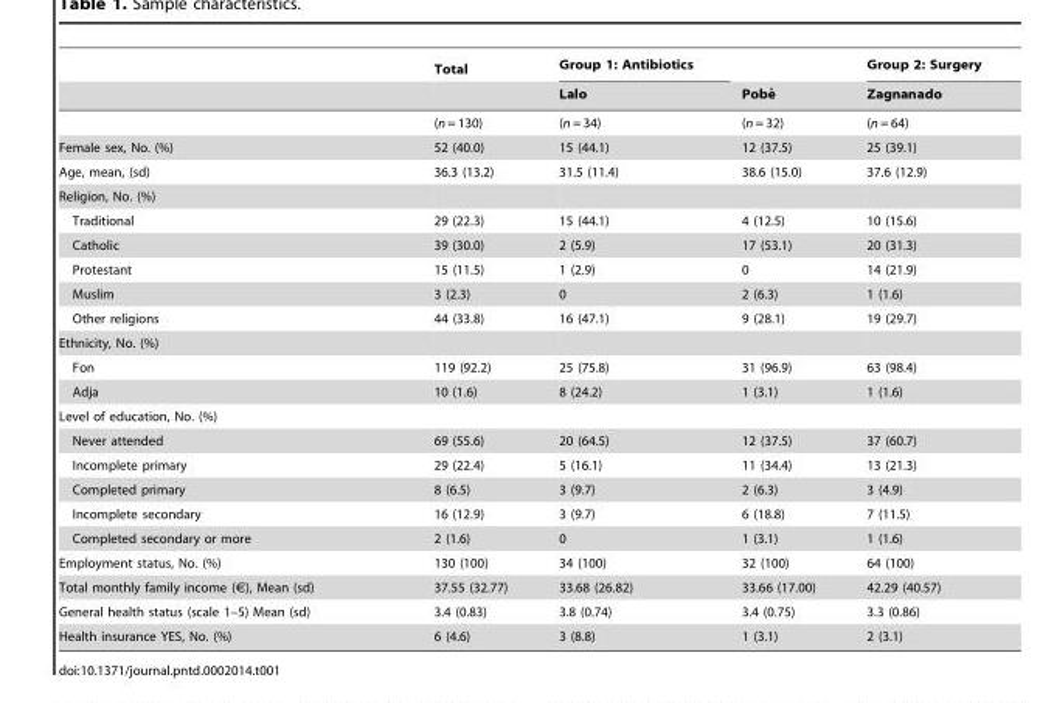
<table><thead><tr><td rowspan="2"></td><td rowspan="2">Total</td><td rowspan="2">Group 1: Antibiotics Lalo</td><td rowspan="2">Pobe`</td><td rowspan="2">Group 2: Surgery Zagnanado</td></tr><tr></tr></thead><tbody><tr><td></td><td>(n = 130)</td><td>(n = 34)</td><td>(n = 32)</td><td>(n = 64)</td></tr><tr><td>Female sex, No. (%)</td><td>52 (40.0)</td><td>15 (44.1)</td><td>12 (37.5)</td><td>25 (39.1)</td></tr><tr><td>Age, mean, (sd)</td><td>36.3 (13.2)</td><td>31.5 (11.4)</td><td>38.6 (15.0)</td><td>37.6 (12.9)</td></tr><tr><td colspan="5">Religion, No. (%)</td></tr><tr><td>Traditional</td><td>29 (22.3)</td><td>15 (44.1)</td><td>4 (12.5)</td><td>10 (15.6)</td></tr><tr><td>Catholic</td><td>39 (30.0)</td><td>2 (5.9)</td><td>17 (53.1)</td><td>20 (31.3)</td></tr><tr><td>Protestant</td><td>15 (11.5)</td><td>1 (2.9)</td><td>0</td><td>14 (21.9)</td></tr><tr><td>Muslim</td><td>3 (2.3)</td><td>0</td><td>2 (6.3)</td><td>1 (1.6)</td></tr><tr><td>Other religions</td><td>44 (33.8)</td><td>16 (47.1)</td><td>9 (28.1)</td><td>19 (29.7)</td></tr><tr><td colspan="5">Ethnicity, No. (%)</td></tr><tr><td>Fon</td><td>119 (92.2)</td><td>25 (75.8)</td><td>31 (96.9)</td><td>63 (98.4)</td></tr><tr><td>Adja</td><td>10 (1.6)</td><td>8 (24.2)</td><td>1 (3.1)</td><td>1 (1.6)</td></tr><tr><td colspan="5">Level of education, No. (%)</td></tr><tr><td>Never attended</td><td>69 (55.6)</td><td>20 (64.5)</td><td>12 (37.5)</td><td>37 (60.7)</td></tr><tr><td>Incomplete primary</td><td>29 (22.4)</td><td>5 (16.1)</td><td>11 (34.4)</td><td>13 (21.3)</td></tr><tr><td>Completed primary</td><td>8 (6.5)</td><td>3 (9.7)</td><td>2 (6.3)</td><td>3 (4.9)</td></tr><tr><td>Incomplete secondary</td><td>16 (12.9)</td><td>3 (9.7)</td><td>6 (18.8)</td><td>7 (11.5)</td></tr><tr><td>Completed secondary or more</td><td>2 (1.6)</td><td>0</td><td>1 (3.1)</td><td>1 (1.6)</td></tr><tr><td>Employment status, No. (%)</td><td>130 (100)</td><td>34 (100)</td><td>32 (100)</td><td>64 (100)</td></tr><tr><td>Total monthly family income (€), Mean (sd)</td><td>37.55 (32.77)</td><td>33.68 (26.82)</td><td>33.66 (17.00)</td><td>42.29 (40.57)</td></tr><tr><td>General health status (scale 1–5) Mean (sd)</td><td>3.4 (0.83)</td><td>3.8 (0.74)</td><td>3.4 (0.75)</td><td>3.3 (0.86)</td></tr><tr><td>Health insurance YES, No. (%)</td><td>6 (4.6)</td><td>3 (8.8)</td><td>1 (3.1)</td><td>2 (3.1)</td></tr></tbody></table>